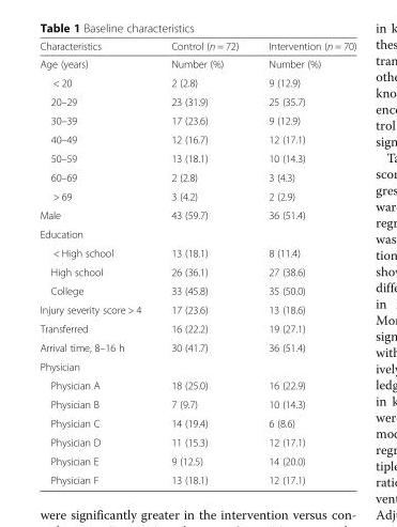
<table><thead><tr><td>Characteristics</td><td>Control (n = 72)</td><td>Intervention (n = 70)</td></tr></thead><tbody><tr><td>Age (years)</td><td>Number (%)</td><td>Number (%)</td></tr><tr><td>&lt; 20</td><td>2 (2.8)</td><td>9 (12.9)</td></tr><tr><td>20–29</td><td>23 (31.9)</td><td>25 (35.7)</td></tr><tr><td>30–39</td><td>17 (23.6)</td><td>9 (12.9)</td></tr><tr><td>40–49</td><td>12 (16.7)</td><td>12 (17.1)</td></tr><tr><td>50–59</td><td>13 (18.1)</td><td>10 (14.3)</td></tr><tr><td>60–69</td><td>2 (2.8)</td><td>3 (4.3)</td></tr><tr><td>&gt; 69</td><td>3 (4.2)</td><td>2 (2.9)</td></tr><tr><td>Male</td><td>43 (59.7)</td><td>36 (51.4)</td></tr><tr><td colspan="3">Education</td></tr><tr><td>&lt; High school</td><td>13 (18.1)</td><td>8 (11.4)</td></tr><tr><td>High school</td><td>26 (36.1)</td><td>27 (38.6)</td></tr><tr><td>College</td><td>33 (45.8)</td><td>35 (50.0)</td></tr><tr><td>Injury severity score &gt; 4</td><td>17 (23.6)</td><td>13 (18.6)</td></tr><tr><td>Transferred</td><td>16 (22.2)</td><td>19 (27.1)</td></tr><tr><td>Arrival time, 8–16 h</td><td>30 (41.7)</td><td>36 (51.4)</td></tr><tr><td colspan="3">Physician</td></tr><tr><td>Physician A</td><td>18 (25.0)</td><td>16 (22.9)</td></tr><tr><td>Physician B</td><td>7 (9.7)</td><td>10 (14.3)</td></tr><tr><td>Physician C</td><td>14 (19.4)</td><td>6 (8.6)</td></tr><tr><td>Physician D</td><td>11 (15.3)</td><td>12 (17.1)</td></tr><tr><td>Physician E</td><td>9 (12.5)</td><td>14 (20.0)</td></tr><tr><td>Physician F</td><td>13 (18.1)</td><td>12 (17.1)</td></tr></tbody></table>